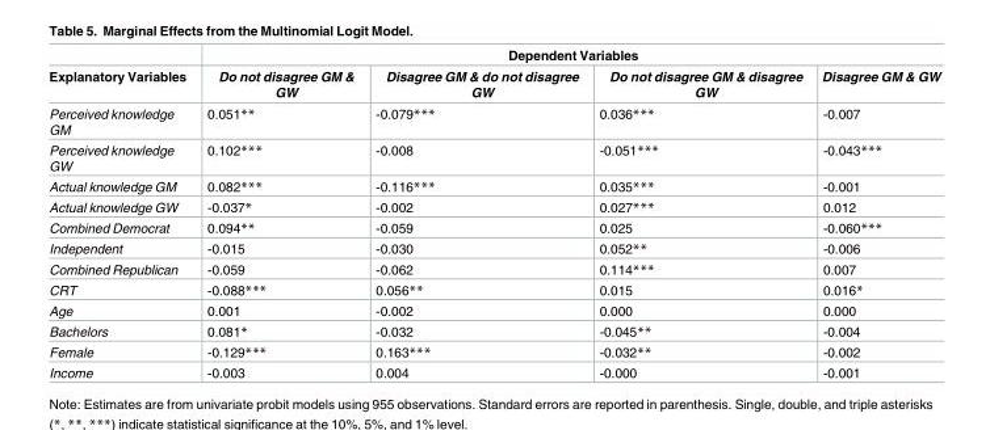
<table><thead><tr><td rowspan="2">Explanatory Variables</td><td colspan="4">Dependent Variables</td></tr><tr><td>Do not disagree GM &amp; GW</td><td>Disagree GM &amp; do not disagree GW</td><td>Do not disagree GM &amp; disagree GW</td><td>Disagree GM &amp; GW</td></tr></thead><tbody><tr><td>Perceived knowledge GM</td><td>0.051**</td><td>-0.079***</td><td>0.036***</td><td>-0.007</td></tr><tr><td>Perceived knowledge GW</td><td>0.102***</td><td>-0.008</td><td>-0.051***</td><td>-0.043***</td></tr><tr><td>Actual knowledge GM</td><td>0.082***</td><td>-0.116***</td><td>0.035***</td><td>-0.001</td></tr><tr><td>Actual knowledge GW</td><td>-0.037*</td><td>-0.002</td><td>0.027***</td><td>0.012</td></tr><tr><td>Combined Democrat</td><td>0.094**</td><td>-0.059</td><td>0.025</td><td>-0.060***</td></tr><tr><td>Independent</td><td>-0.015</td><td>-0.030</td><td>0.052**</td><td>-0.006</td></tr><tr><td>Combined Republican</td><td>-0.059</td><td>-0.062</td><td>0.114***</td><td>0.007</td></tr><tr><td>CRT</td><td>-0.088***</td><td>0.056**</td><td>0.015</td><td>0.016*</td></tr><tr><td>Age</td><td>0.001</td><td>-0.002</td><td>0.000</td><td>0.000</td></tr><tr><td>Bachelors</td><td>0.081*</td><td>-0.032</td><td>-0.045**</td><td>-0.004</td></tr><tr><td>Female</td><td>-0.129***</td><td>0.163***</td><td>-0.032**</td><td>-0.002</td></tr><tr><td>Income</td><td>-0.003</td><td>0.004</td><td>-0.000</td><td>-0.001</td></tr></tbody></table>